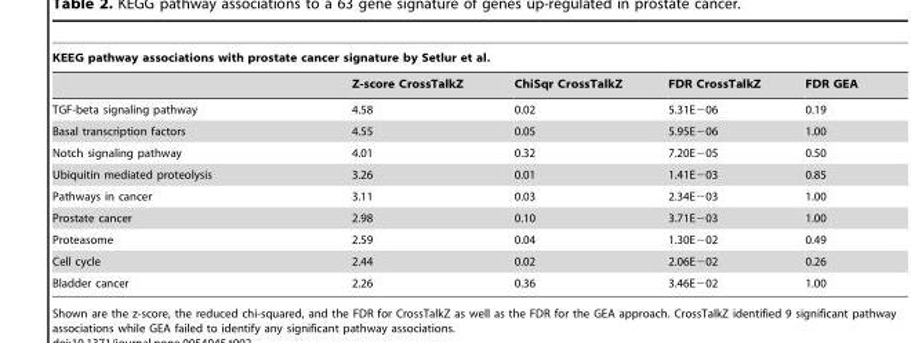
<table><thead><tr><td colspan="5">KEEG pathway associations with prostate cancer signature by Setlur et al.</td></tr><tr><td></td><td>Z-score CrossTalkZ</td><td>ChiSqr CrossTalkZ</td><td>FDR CrossTalkZ</td><td>FDR GEA</td></tr></thead><tbody><tr><td>TGF-beta signaling pathway</td><td>4.58</td><td>0.02</td><td>5.31E−06</td><td>0.19</td></tr><tr><td>Basal transcription factors</td><td>4.55</td><td>0.05</td><td>5.95E−06</td><td>1.00</td></tr><tr><td>Notch signaling pathway</td><td>4.01</td><td>0.32</td><td>7.20E−05</td><td>0.50</td></tr><tr><td>Ubiquitin mediated proteolysis</td><td>3.26</td><td>0.01</td><td>1.41E−03</td><td>0.85</td></tr><tr><td>Pathways in cancer</td><td>3.11</td><td>0.03</td><td>2.34E−03</td><td>1.00</td></tr><tr><td>Prostate cancer</td><td>2.98</td><td>0.10</td><td>3.71E−03</td><td>1.00</td></tr><tr><td>Proteasome</td><td>2.59</td><td>0.04</td><td>1.30E−02</td><td>0.49</td></tr><tr><td>Cell cycle</td><td>2.44</td><td>0.02</td><td>2.06E−02</td><td>0.26</td></tr><tr><td>Bladder cancer</td><td>2.26</td><td>0.36</td><td>3.46E−02</td><td>1.00</td></tr></tbody></table>